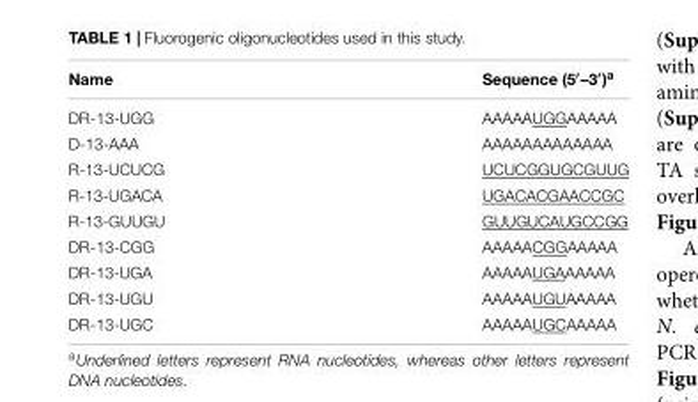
<table><thead><tr><td>Name</td><td>Sequence (5′–3′)<sup>a</sup></td></tr></thead><tbody><tr><td>DR-13-UGG</td><td>AAAAAUGGAAAAA</td></tr><tr><td>D-13-AAA</td><td>AAAAAAAAAAAAA</td></tr><tr><td>R-13-UCUCG</td><td>UCUCGGUGCGUUG</td></tr><tr><td>R-13-UGACA</td><td>UGACACGAACCGC</td></tr><tr><td>R-13-GUUGU</td><td>GUUGUCAUGCCGG</td></tr><tr><td>DR-13-CGG</td><td>AAAAACGGAAAAA</td></tr><tr><td>DR-13-UGA</td><td>AAAAAUGAAAAAA</td></tr><tr><td>DR-13-UGU</td><td>AAAAAUGUAAAAA</td></tr><tr><td>DR-13-UGC</td><td>AAAAAUGCAAAAA</td></tr></tbody></table>